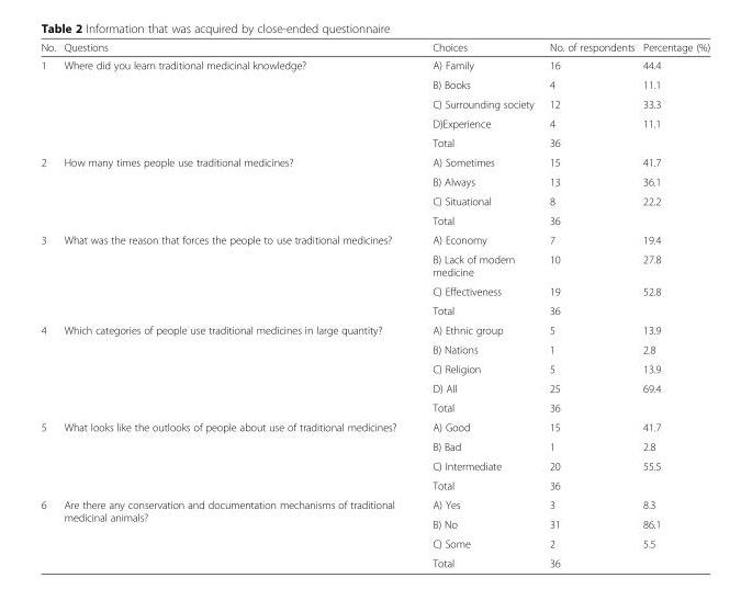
<table><thead><tr><td>No.</td><td>Questions</td><td>Choices</td><td>No. of respondents</td><td>Percentage (%)</td></tr></thead><tbody><tr><td rowspan="5">1</td><td rowspan="5">Where did you learn traditional medicinal knowledge?</td><td>A) Family</td><td>16</td><td>44.4</td></tr><tr><td>B) Books</td><td>4</td><td>11.1</td></tr><tr><td>C) Surrounding society</td><td>12</td><td>33.3</td></tr><tr><td>D)Experience</td><td>4</td><td>11.1</td></tr><tr><td>Total</td><td>36</td><td></td></tr><tr><td rowspan="4">2</td><td rowspan="4">How many times people use traditional medicines?</td><td>A) Sometimes</td><td>15</td><td>41.7</td></tr><tr><td>B) Always</td><td>13</td><td>36.1</td></tr><tr><td>C) Situational</td><td>8</td><td>22.2</td></tr><tr><td>Total</td><td>36</td><td></td></tr><tr><td rowspan="4">3</td><td rowspan="4">What was the reason that forces the people to use traditional medicines?</td><td>A) Economy</td><td>7</td><td>19.4</td></tr><tr><td>B) Lack of modern medicine</td><td>10</td><td>27.8</td></tr><tr><td>C) Effectiveness</td><td>19</td><td>52.8</td></tr><tr><td>Total</td><td>36</td><td></td></tr><tr><td rowspan="5">4</td><td rowspan="5">Which categories of people use traditional medicines in large quantity?</td><td>A) Ethnic group</td><td>5</td><td>13.9</td></tr><tr><td>B) Nations</td><td>1</td><td>2.8</td></tr><tr><td>C) Religion</td><td>5</td><td>13.9</td></tr><tr><td>D) All</td><td>25</td><td>69.4</td></tr><tr><td>Total</td><td>36</td><td></td></tr><tr><td rowspan="4">5</td><td rowspan="4">What looks like the outlooks of people about use of traditional medicines?</td><td>A) Good</td><td>15</td><td>41.7</td></tr><tr><td>B) Bad</td><td>1</td><td>2.8</td></tr><tr><td>C) Intermediate</td><td>20</td><td>55.5</td></tr><tr><td>Total</td><td>36</td><td></td></tr><tr><td rowspan="4">6</td><td rowspan="4">Are there any conservation and documentation mechanisms of traditional medicinal animals?</td><td>A) Yes</td><td>3</td><td>8.3</td></tr><tr><td>B) No</td><td>31</td><td>86.1</td></tr><tr><td>C) Some</td><td>2</td><td>5.5</td></tr><tr><td>Total</td><td>36</td><td></td></tr></tbody></table>